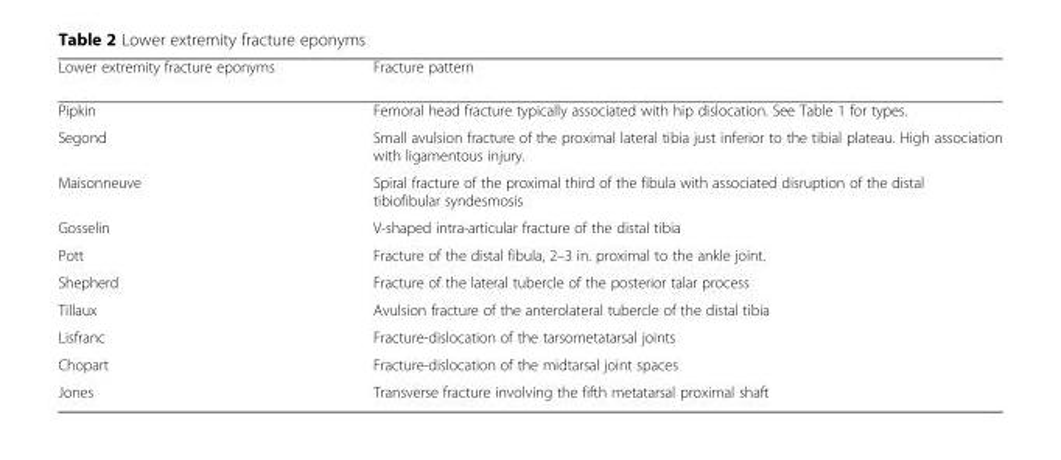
<table><thead><tr><td>Lower extremity fracture eponyms</td><td>Fracture pattern</td></tr></thead><tbody><tr><td>Pipkin</td><td>Femoral head fracture typically associated with hip dislocation. See Table 1 for types.</td></tr><tr><td>Segond</td><td>Small avulsion fracture of the proximal lateral tibia just inferior to the tibial plateau. High association with ligamentous injury.</td></tr><tr><td>Maisonneuve</td><td>Spiral fracture of the proximal third of the fibula with associated disruption of the distal tibiofibular syndesmosis</td></tr><tr><td>Gosselin</td><td>V-shaped intra-articular fracture of the distal tibia</td></tr><tr><td>Pott</td><td>Fracture of the distal fibula, 2–3 in. proximal to the ankle joint.</td></tr><tr><td>Shepherd</td><td>Fracture of the lateral tubercle of the posterior talar process</td></tr><tr><td>Tillaux</td><td>Avulsion fracture of the anterolateral tubercle of the distal tibia</td></tr><tr><td>Lisfranc</td><td>Fracture-dislocation of the tarsometatarsal joints</td></tr><tr><td>Chopart</td><td>Fracture-dislocation of the midtarsal joint spaces</td></tr><tr><td>Jones</td><td>Transverse fracture involving the fifth metatarsal proximal shaft</td></tr></tbody></table>